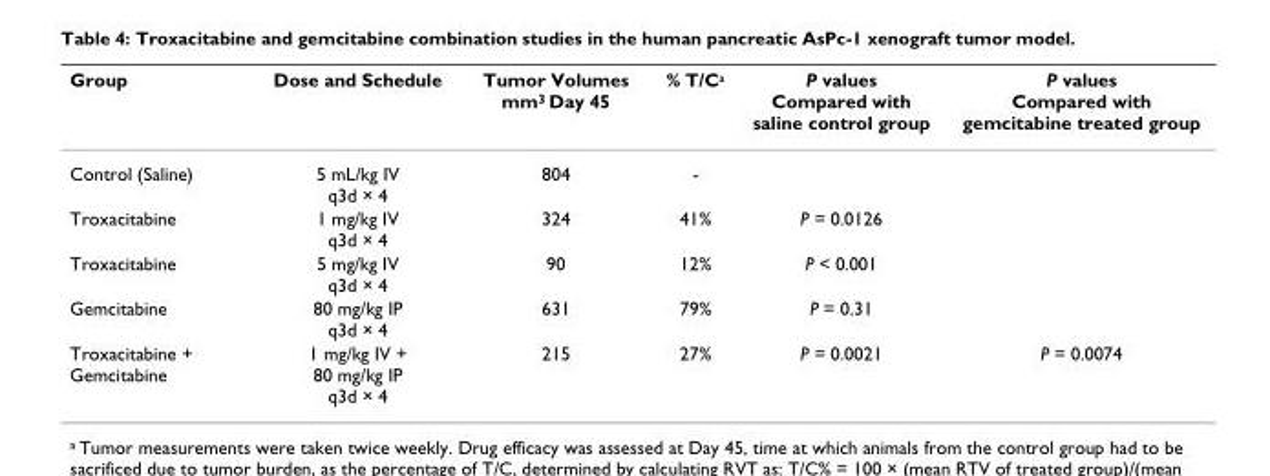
<table><thead><tr><td>Group</td><td>Dose and Schedule</td><td>Tumor Volumes mm<sup>3</sup> Day 45</td><td>% T/C<sup>a</sup></td><td>P values Compared with saline control group</td><td>P values Compared with gemcitabine treated group</td></tr></thead><tbody><tr><td>Control (Saline)</td><td>5 mL/kg IV q3d × 4</td><td>804</td><td>-</td><td></td><td></td></tr><tr><td>Troxacitabine</td><td>1 mg/kg IV q3d × 4</td><td>324</td><td>41%</td><td>P = 0.0126</td><td></td></tr><tr><td>Troxacitabine</td><td>5 mg/kg IV q3d × 4</td><td>90</td><td>12%</td><td>P &lt; 0.001</td><td></td></tr><tr><td>Gemcitabine</td><td>80 mg/kg IP q3d × 4</td><td>631</td><td>79%</td><td>P = 0.31</td><td></td></tr><tr><td>Troxacitabine + Gemcitabine</td><td>1 mg/kg IV + 80 mg/kg IP q3d × 4</td><td>215</td><td>27%</td><td>P = 0.0021</td><td>P = 0.0074</td></tr></tbody></table>